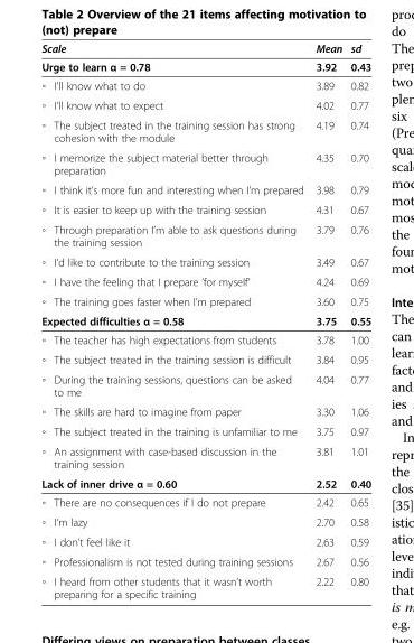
<table><thead><tr><td rowspan="2" colspan="2">Scale Urge to learn α = 0.78</td><td rowspan="3">Mean 3.92 3.89</td><td rowspan="3">sd 0.43 0.82</td></tr><tr></tr><tr><td>◦</td><td>I&#x27;ll know what to do</td></tr></thead><tbody><tr><td>◦</td><td>I’ll know what to expect</td><td>4.02</td><td>0.77</td></tr><tr><td>◦</td><td>The subject treated in the training session has strong cohesion with the module</td><td>4.19</td><td>0.74</td></tr><tr><td>◦</td><td>I memorize the subject material better through preparation</td><td>4.35</td><td>0.70</td></tr><tr><td>◦</td><td>I think it’s more fun and interesting when I’m prepared</td><td>3.98</td><td>0.79</td></tr><tr><td>◦</td><td>It is easier to keep up with the training session</td><td>4.31</td><td>0.67</td></tr><tr><td>◦</td><td>Through preparation I’m able to ask questions during the training session</td><td>3.79</td><td>0.76</td></tr><tr><td>◦</td><td>I’d like to contribute to the training session</td><td>3.49</td><td>0.67</td></tr><tr><td>◦</td><td>I have the feeling that I prepare ’for myself’</td><td>4.24</td><td>0.69</td></tr><tr><td>◦</td><td>The training goes faster when I’m prepared</td><td>3.60</td><td>0.75</td></tr><tr><td colspan="2">Expected difficulties α = 0.58</td><td>3.75</td><td>0.55</td></tr><tr><td>◦</td><td>The teacher has high expectations from students</td><td>3.78</td><td>1.00</td></tr><tr><td>◦</td><td>The subject treated in the training session is difficult</td><td>3.84</td><td>0.95</td></tr><tr><td>◦</td><td>During the training sessions, questions can be asked to me</td><td>4.04</td><td>0.77</td></tr><tr><td>◦</td><td>The skills are hard to imagine from paper</td><td>3.30</td><td>1.06</td></tr><tr><td>◦</td><td>The subject treated in the training is unfamiliar to me</td><td>3.75</td><td>0.97</td></tr><tr><td>◦</td><td>An assignment with case-based discussion in the training session</td><td>3.81</td><td>1.01</td></tr><tr><td colspan="2">Lack of inner drive α = 0.60</td><td>2.52</td><td>0.40</td></tr><tr><td>◦</td><td>There are no consequences if I do not prepare</td><td>2.42</td><td>0.65</td></tr><tr><td>◦</td><td>I’m lazy</td><td>2.70</td><td>0.58</td></tr><tr><td>◦</td><td>I don’t feel like it</td><td>2.63</td><td>0.59</td></tr><tr><td>◦</td><td>Professionalism is not tested during training sessions</td><td>2.67</td><td>0.56</td></tr><tr><td>◦</td><td>I heard from other students that it wasn’t worth preparing for a specific training</td><td>2.22</td><td>0.80</td></tr></tbody></table>